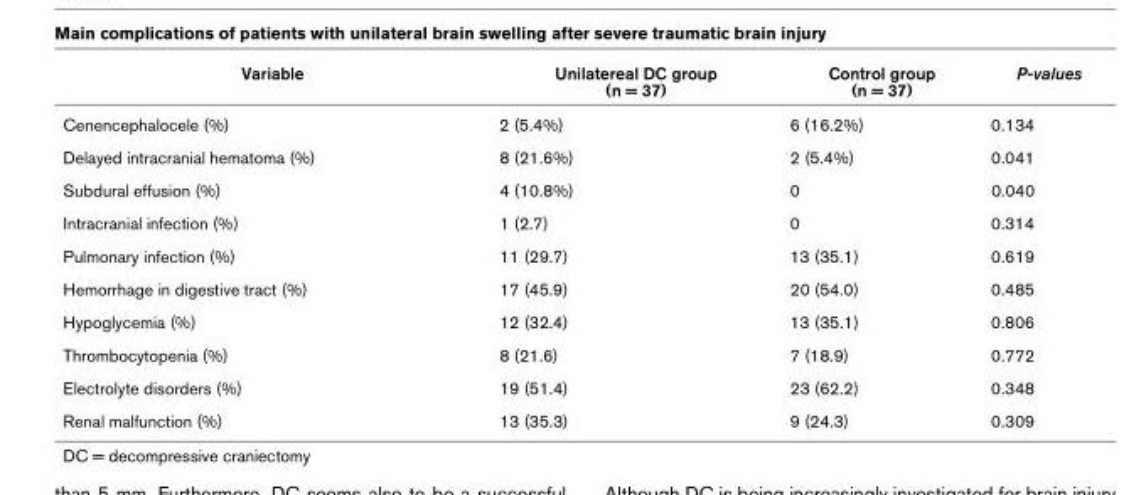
<table><thead><tr><td>Variable</td><td>Unilatereal DC group (n = 37)</td><td>Control group (n = 37)</td><td>P-values</td></tr></thead><tbody><tr><td>Cenencephalocele (%)</td><td>2 (5.4%)</td><td>6 (16.2%)</td><td>0.134</td></tr><tr><td>Delayed intracranial hematoma (%)</td><td>8 (21.6%)</td><td>2 (5.4%)</td><td>0.041</td></tr><tr><td>Subdural effusion (%)</td><td>4 (10.8%)</td><td>0</td><td>0.040</td></tr><tr><td>Intracranial infection (%)</td><td>1 (2.7)</td><td>0</td><td>0.314</td></tr><tr><td>Pulmonary infection (%)</td><td>11 (29.7)</td><td>13 (35.1)</td><td>0.619</td></tr><tr><td>Hemorrhage in digestive tract (%)</td><td>17 (45.9)</td><td>20 (54.0)</td><td>0.485</td></tr><tr><td>Hypoglycemia (%)</td><td>12 (32.4)</td><td>13 (35.1)</td><td>0.806</td></tr><tr><td>Thrombocytopenia (%)</td><td>8 (21.6)</td><td>7 (18.9)</td><td>0.772</td></tr><tr><td>Electrolyte disorders (%)</td><td>19 (51.4)</td><td>23 (62.2)</td><td>0.348</td></tr><tr><td>Renal malfunction (%)</td><td>13 (35.3)</td><td>9 (24.3)</td><td>0.309</td></tr></tbody></table>